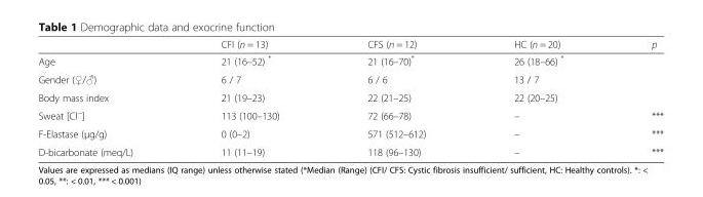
<table><thead><tr><td></td><td>CFI (n = 13)</td><td>CFS (n = 12)</td><td>HC (n = 20)</td><td>p</td></tr></thead><tbody><tr><td>Age</td><td>21 (16–52) *</td><td>21 (16–70)*</td><td>26 (18–66) *</td><td></td></tr><tr><td>Gender (♀/♂)</td><td>6 / 7</td><td>6 / 6</td><td>13 / 7</td><td></td></tr><tr><td>Body mass index</td><td>21 (19–23)</td><td>22 (21–25)</td><td>22 (20–25)</td><td></td></tr><tr><td>Sweat [Cl<sup>−</sup>]</td><td>113 (100–130)</td><td>72 (66–78)</td><td>–</td><td>***</td></tr><tr><td>F-Elastase (μg/g)</td><td>0 (0–2)</td><td>571 (512–612)</td><td>–</td><td>***</td></tr><tr><td>D-bicarbonate (meq/L)</td><td>11 (11–19)</td><td>118 (96–130)</td><td>–</td><td>***</td></tr></tbody></table>